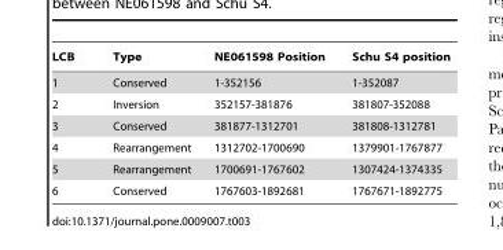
<table><thead><tr><td>LCB</td><td>Type</td><td>NE061598 Position</td><td>Schu S4 position</td></tr></thead><tbody><tr><td>1</td><td>Conserved</td><td>1-352156</td><td>1-352087</td></tr><tr><td>2</td><td>Inversion</td><td>352157-381876</td><td>381807-352088</td></tr><tr><td>3</td><td>Conserved</td><td>381877-1312701</td><td>381808-1312781</td></tr><tr><td>4</td><td>Rearrangement</td><td>1312702-1700690</td><td>1379901-1767877</td></tr><tr><td>5</td><td>Rearrangement</td><td>1700691-1767602</td><td>1307424-1374335</td></tr><tr><td>6</td><td>Conserved</td><td>1767603-1892681</td><td>1767671-1892775</td></tr></tbody></table>